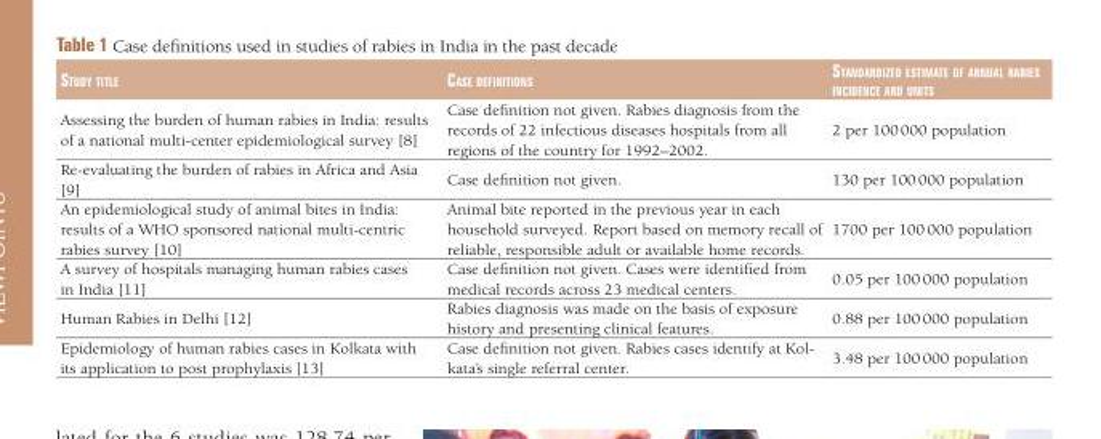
<table><thead><tr><td>Study title</td><td>caSe deFinitionS</td><td>Standardized eStimate oF annual rabieS incidence and unitS</td></tr></thead><tbody><tr><td>Assessing the burden of human rabies in India: results of a national multi-center epidemiological survey [8]</td><td>Case definition not given. Rabies diagnosis from the records of 22 infectious diseases hospitals from all regions of the country for 1992–2002.</td><td>2 per 100 000 population</td></tr><tr><td>Re-evaluating the burden of rabies in Africa and Asia [9]</td><td>Case definition not given.</td><td>130 per 100 000 population</td></tr><tr><td>An epidemiological study of animal bites in India: results of a WHO sponsored national multi-centric rabies survey [10]</td><td>Animal bite reported in the previous year in each household surveyed. Report based on memory recall of reliable, responsible adult or available home records.</td><td>1700 per 100 000 population</td></tr><tr><td>A survey of hospitals managing human rabies cases in India [11]</td><td>Case definition not given. Cases were identified from medical records across 23 medical centers.</td><td>0.05 per 100 000 population</td></tr><tr><td>Human Rabies in Delhi [12]</td><td>Rabies diagnosis was made on the basis of exposure history and presenting clinical features.</td><td>0.88 per 100 000 population</td></tr><tr><td>Epidemiology of human rabies cases in Kolkata with its application to post prophylaxis [13]</td><td>Case definition not given. Rabies cases identify at Kol- kata’s single referral center.</td><td>3.48 per 100 000 population</td></tr></tbody></table>